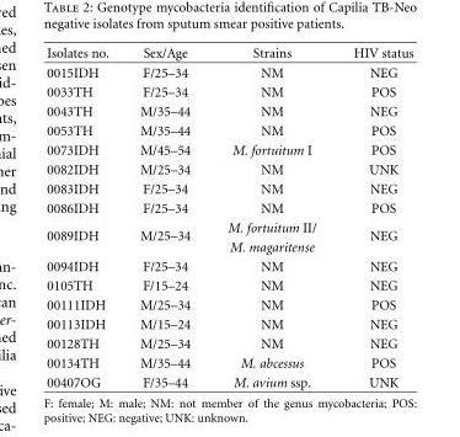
<table><thead><tr><td>Isolates no.</td><td>Sex/Age</td><td>Strains</td><td>HIV status</td></tr></thead><tbody><tr><td>0015IDH</td><td>F/25–34</td><td>NM</td><td>NEG</td></tr><tr><td>0033TH</td><td>F/25–34</td><td>NM</td><td>POS</td></tr><tr><td>0043TH</td><td>M/35–44</td><td>NM</td><td>NEG</td></tr><tr><td>0053TH</td><td>M/35–44</td><td>NM</td><td>POS</td></tr><tr><td>0073IDH</td><td>M/45–54</td><td>M. fortuitum I</td><td>POS</td></tr><tr><td>0082IDH</td><td>M/25–34</td><td>NM</td><td>UNK</td></tr><tr><td>0083IDH</td><td>F/25–34</td><td>NM</td><td>NEG</td></tr><tr><td>0086IDH</td><td>F/25–34</td><td>NM</td><td>POS</td></tr><tr><td rowspan="2">0089IDH</td><td rowspan="2">M/25–34</td><td>M. fortuitum II/</td><td rowspan="2">NEG</td></tr><tr><td>M. magaritense</td></tr><tr><td>0094IDH</td><td>F/25–34</td><td>NM</td><td>NEG</td></tr><tr><td>0105TH</td><td>F/15–24</td><td>NM</td><td>NEG</td></tr><tr><td>00111IDH</td><td>M/25–34</td><td>NM</td><td>POS</td></tr><tr><td>00113IDH</td><td>M/15–24</td><td>NM</td><td>NEG</td></tr><tr><td>00128TH</td><td>M/25–34</td><td>NM</td><td>NEG</td></tr><tr><td>00134TH</td><td>M/35–44</td><td>M. abcessus</td><td>POS</td></tr><tr><td>00407OG</td><td>F/35–44</td><td>M. avium ssp.</td><td>UNK</td></tr></tbody></table>